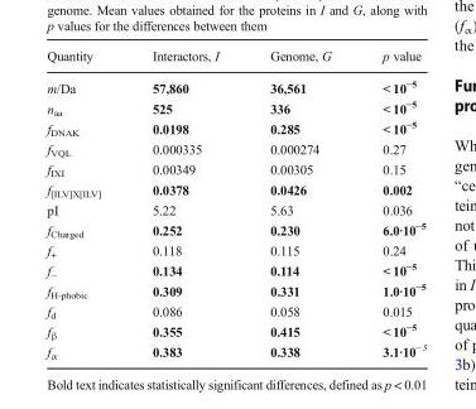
<table><thead><tr><td>Quantity</td><td>Interactors, I</td><td>Genome, G</td><td>p value</td></tr></thead><tbody><tr><td>m/Da</td><td>57,860</td><td>36,561</td><td>&lt; 10<sup>−5</sup></td></tr><tr><td>n<sub>aa</sub></td><td>525</td><td>336</td><td>&lt; 10<sup>−5</sup></td></tr><tr><td>f<sub>DNAK</sub></td><td>0.0198</td><td>0.285</td><td>&lt; 10<sup>−5</sup></td></tr><tr><td>f<sub>VQL</sub></td><td>0.000335</td><td>0.000274</td><td>0.27</td></tr><tr><td>f<sub>IXI</sub></td><td>0.00349</td><td>0.00305</td><td>0.15</td></tr><tr><td>f<sub>[ILV]X[ILV]</sub></td><td>0.0378</td><td>0.0426</td><td>0.002</td></tr><tr><td>pI</td><td>5.22</td><td>5.63</td><td>0.036</td></tr><tr><td>f<sub>Charged</sub></td><td>0.252</td><td>0.230</td><td>6.0∙10<sup>−5</sup></td></tr><tr><td>f<sub>+</sub></td><td>0.118</td><td>0.115</td><td>0.24</td></tr><tr><td>f<sub>−</sub></td><td>0.134</td><td>0.114</td><td>&lt; 10<sup>−5</sup></td></tr><tr><td>f<sub>H-phobic</sub></td><td>0.309</td><td>0.331</td><td>1.0∙10<sup>−5</sup></td></tr><tr><td>f<sub>d</sub></td><td>0.086</td><td>0.058</td><td>0.015</td></tr><tr><td>f<sub>β</sub></td><td>0.355</td><td>0.415</td><td>&lt; 10<sup>−5</sup></td></tr><tr><td>f<sub>α</sub></td><td>0.383</td><td>0.338</td><td>3.1∙10<sup>−5</sup></td></tr></tbody></table>